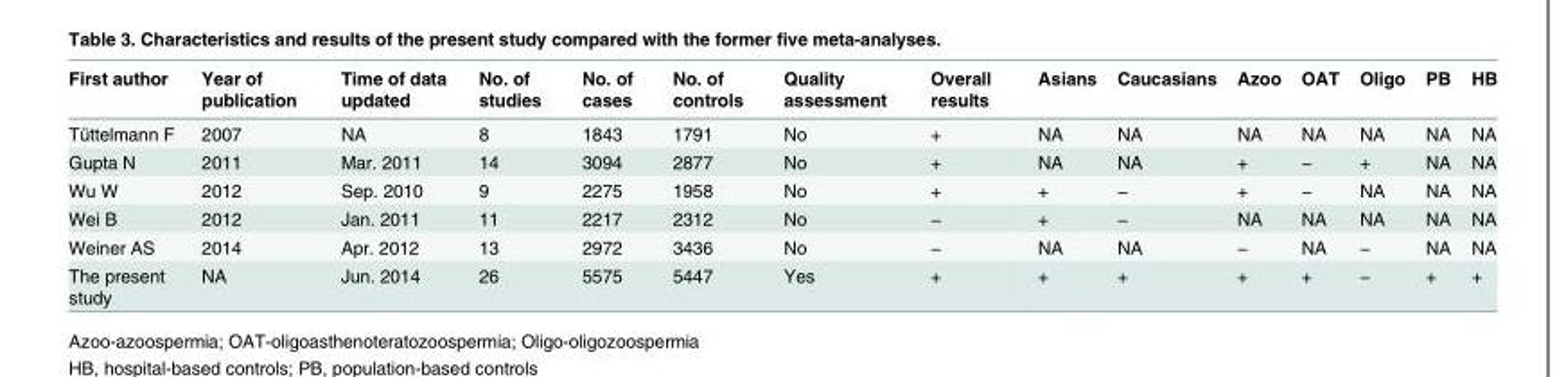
<table><thead><tr><td>First author</td><td>Year of publication</td><td>Time of data updated</td><td>No. of studies</td><td>No. of cases</td><td>No. of controls</td><td>Quality assessment</td><td>Overall results</td><td>Asians</td><td>Caucasians</td><td>Azoo</td><td>OAT</td><td>Oligo</td><td>PB</td><td>HB</td></tr></thead><tbody><tr><td>Tüttelmann F</td><td>2007</td><td>NA</td><td>8</td><td>1843</td><td>1791</td><td>No</td><td>+</td><td>NA</td><td>NA</td><td>NA</td><td>NA</td><td>NA</td><td>NA</td><td>NA</td></tr><tr><td>Gupta N</td><td>2011</td><td>Mar. 2011</td><td>14</td><td>3094</td><td>2877</td><td>No</td><td>+</td><td>NA</td><td>NA</td><td>+</td><td>−</td><td>+</td><td>NA</td><td>NA</td></tr><tr><td>Wu W</td><td>2012</td><td>Sep. 2010</td><td>9</td><td>2275</td><td>1958</td><td>No</td><td>+</td><td>+</td><td>−</td><td>+</td><td>−</td><td>NA</td><td>NA</td><td>NA</td></tr><tr><td>Wei B</td><td>2012</td><td>Jan. 2011</td><td>11</td><td>2217</td><td>2312</td><td>No</td><td>−</td><td>+</td><td>−</td><td>NA</td><td>NA</td><td>NA</td><td>NA</td><td>NA</td></tr><tr><td>Weiner AS</td><td>2014</td><td>Apr. 2012</td><td>13</td><td>2972</td><td>3436</td><td>No</td><td>−</td><td>NA</td><td>NA</td><td>−</td><td>NA</td><td>−</td><td>NA</td><td>NA</td></tr><tr><td>The present study</td><td>NA</td><td>Jun. 2014</td><td>26</td><td>5575</td><td>5447</td><td>Yes</td><td>+</td><td>+</td><td>+</td><td>+</td><td>+</td><td>−</td><td>+</td><td>+</td></tr></tbody></table>